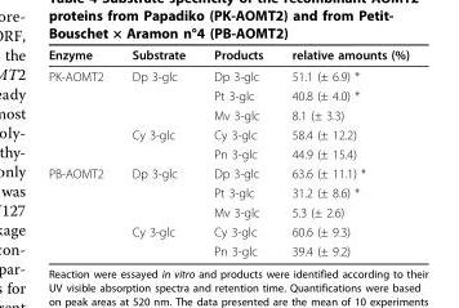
<table><thead><tr><td>Enzyme</td><td>Substrate</td><td>Products</td><td>relative amounts (%)</td></tr></thead><tbody><tr><td rowspan="5">PK-AOMT2</td><td>Dp 3-glc</td><td>Dp 3-glc</td><td>51.1 (± 6.9) *</td></tr><tr><td></td><td>Pt 3-glc</td><td>40.8 (± 4.0) *</td></tr><tr><td></td><td>Mv 3-glc</td><td>8.1 (± 3.3)</td></tr><tr><td>Cy 3-glc</td><td>Cy 3-glc</td><td>58.4 (± 12.2)</td></tr><tr><td></td><td>Pn 3-glc</td><td>44.9 (± 15.4)</td></tr><tr><td rowspan="5">PB-AOMT2</td><td>Dp 3-glc</td><td>Dp 3-glc</td><td>63.6 (± 11.1) *</td></tr><tr><td></td><td>Pt 3-glc</td><td>31.2 (± 8.6) *</td></tr><tr><td></td><td>Mv 3-glc</td><td>5.3 (± 2.6)</td></tr><tr><td>Cy 3-glc</td><td>Cy 3-glc</td><td>60.6 (± 9.3)</td></tr><tr><td></td><td>Pn 3-glc</td><td>39.4 (± 9.2)</td></tr></tbody></table>